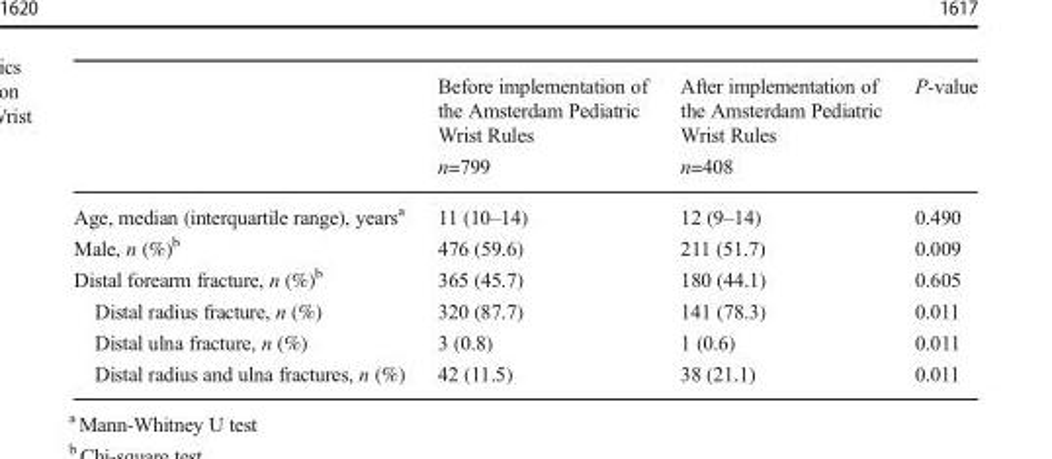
<table><thead><tr><td></td><td>Before implementation of the Amsterdam Pediatric Wrist Rules n=799</td><td>After implementation of the Amsterdam Pediatric Wrist Rules n=408</td><td>P-value</td></tr></thead><tbody><tr><td>Age, median (interquartile range), years<sup>a</sup></td><td>11 (10–14)</td><td>12 (9–14)</td><td>0.490</td></tr><tr><td>Male, n (%)<sup>b</sup></td><td>476 (59.6)</td><td>211 (51.7)</td><td>0.009</td></tr><tr><td>Distal forearm fracture, n (%)<sup>b</sup></td><td>365 (45.7)</td><td>180 (44.1)</td><td>0.605</td></tr><tr><td>Distal radius fracture, n (%)</td><td>320 (87.7)</td><td>141 (78.3)</td><td>0.011</td></tr><tr><td>Distal ulna fracture, n (%)</td><td>3 (0.8)</td><td>1 (0.6)</td><td>0.011</td></tr><tr><td>Distal radius and ulna fractures, n (%)</td><td>42 (11.5)</td><td>38 (21.1)</td><td>0.011</td></tr></tbody></table>